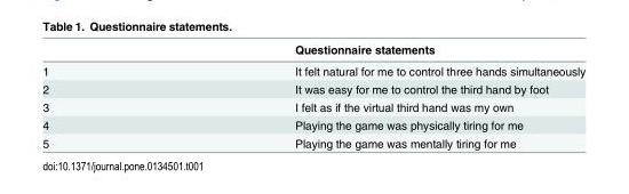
<table><thead><tr><td></td><td>Questionnaire statements</td></tr></thead><tbody><tr><td>1</td><td>It felt natural for me to control three hands simultaneously</td></tr><tr><td>2</td><td>It was easy for me to control the third hand by foot</td></tr><tr><td>3</td><td>I felt as if the virtual third hand was my own</td></tr><tr><td>4</td><td>Playing the game was physically tiring for me</td></tr><tr><td>5</td><td>Playing the game was mentally tiring for me</td></tr></tbody></table>